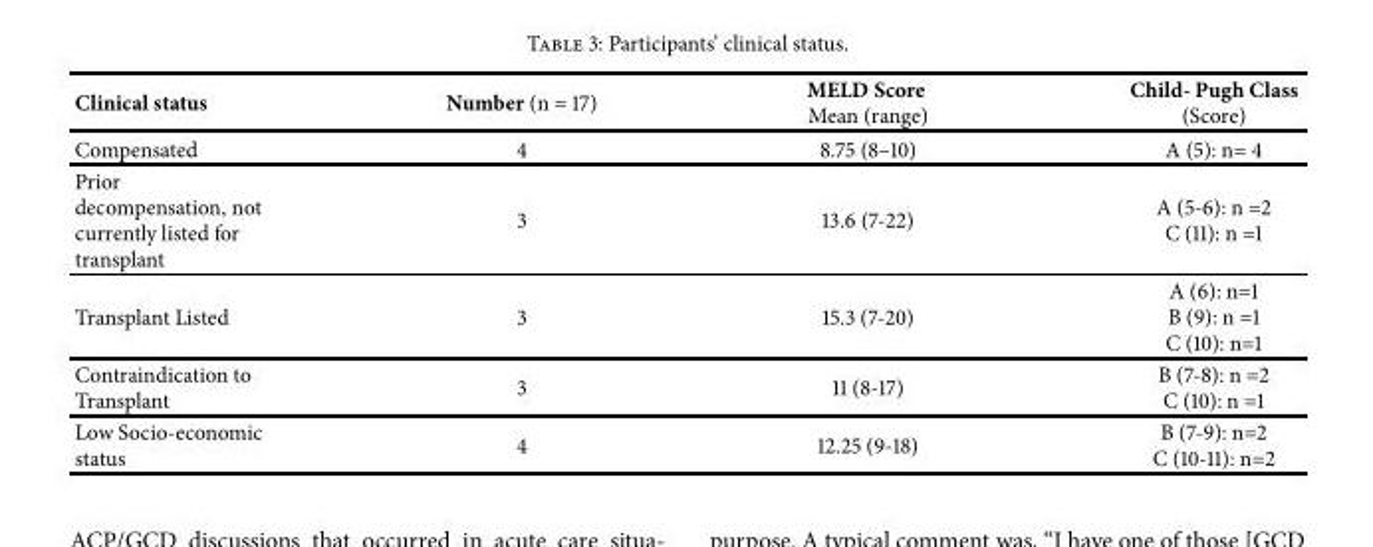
<table><thead><tr><td>Clinical status</td><td>Number (n = 17)</td><td>MELD Score Mean (range)</td><td>Child- Pugh Class (Score)</td></tr></thead><tbody><tr><td>Compensated</td><td>4</td><td>8.75 (8–10)</td><td>A (5): n= 4</td></tr><tr><td>Prior decompensation, not currently listed for transplant</td><td>3</td><td>13.6 (7-22)</td><td>A (5-6): n =2 C (11): n =1</td></tr><tr><td>Transplant Listed</td><td>3</td><td>15.3 (7-20)</td><td>A (6): n=1 B (9): n =1 C (10): n=1</td></tr><tr><td>Contraindication to Transplant</td><td>3</td><td>11 (8-17)</td><td>B (7-8): n =2 C (10): n =1</td></tr><tr><td>Low Socio-economic status</td><td>4</td><td>12.25 (9-18)</td><td>B (7-9): n=2 C (10-11): n=2</td></tr></tbody></table>